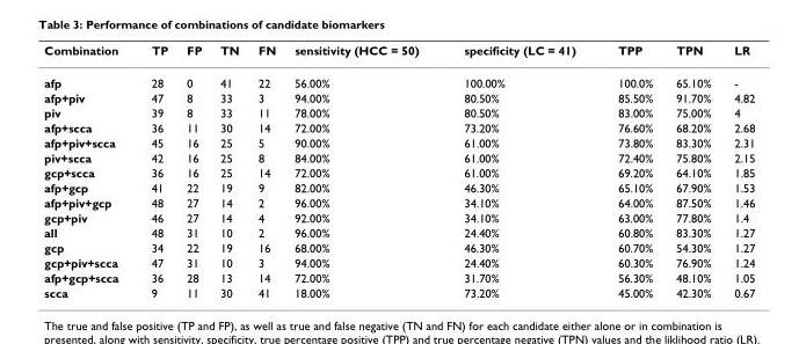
<table><thead><tr><td>Combination</td><td>TP</td><td>FP</td><td>TN</td><td>FN</td><td>sensitivity (HCC = 50)</td><td>specificity (LC = 41)</td><td>TPP</td><td>TPN</td><td>LR</td></tr></thead><tbody><tr><td>afp</td><td>28</td><td>0</td><td>41</td><td>22</td><td>56.00%</td><td>100.00%</td><td>100.0%</td><td>65.10%</td><td>-</td></tr><tr><td>afp+piv</td><td>47</td><td>8</td><td>33</td><td>3</td><td>94.00%</td><td>80.50%</td><td>85.50%</td><td>91.70%</td><td>4.82</td></tr><tr><td>piv</td><td>39</td><td>8</td><td>33</td><td>11</td><td>78.00%</td><td>80.50%</td><td>83.00%</td><td>75.00%</td><td>4</td></tr><tr><td>afp+scca</td><td>36</td><td>11</td><td>30</td><td>14</td><td>72.00%</td><td>73.20%</td><td>76.60%</td><td>68.20%</td><td>2.68</td></tr><tr><td>afp+piv+scca</td><td>45</td><td>16</td><td>25</td><td>5</td><td>90.00%</td><td>61.00%</td><td>73.80%</td><td>83.30%</td><td>2.31</td></tr><tr><td>piv+scca</td><td>42</td><td>16</td><td>25</td><td>8</td><td>84.00%</td><td>61.00%</td><td>72.40%</td><td>75.80%</td><td>2.15</td></tr><tr><td>gcp+scca</td><td>36</td><td>16</td><td>25</td><td>14</td><td>72.00%</td><td>61.00%</td><td>69.20%</td><td>64.10%</td><td>1.85</td></tr><tr><td>afp+gcp</td><td>41</td><td>22</td><td>19</td><td>9</td><td>82.00%</td><td>46.30%</td><td>65.10%</td><td>67.90%</td><td>1.53</td></tr><tr><td>afp+piv+gcp</td><td>48</td><td>27</td><td>14</td><td>2</td><td>96.00%</td><td>34.10%</td><td>64.00%</td><td>87.50%</td><td>1.46</td></tr><tr><td>gcp+piv</td><td>46</td><td>27</td><td>14</td><td>4</td><td>92.00%</td><td>34.10%</td><td>63.00%</td><td>77.80%</td><td>1.4</td></tr><tr><td>all</td><td>48</td><td>31</td><td>10</td><td>2</td><td>96.00%</td><td>24.40%</td><td>60.80%</td><td>83.30%</td><td>1.27</td></tr><tr><td>gcp</td><td>34</td><td>22</td><td>19</td><td>16</td><td>68.00%</td><td>46.30%</td><td>60.70%</td><td>54.30%</td><td>1.27</td></tr><tr><td>gcp+piv+scca</td><td>47</td><td>31</td><td>10</td><td>3</td><td>94.00%</td><td>24.40%</td><td>60.30%</td><td>76.90%</td><td>1.24</td></tr><tr><td>afp+gcp+scca</td><td>36</td><td>28</td><td>13</td><td>14</td><td>72.00%</td><td>31.70%</td><td>56.30%</td><td>48.10%</td><td>1.05</td></tr><tr><td>scca</td><td>9</td><td>11</td><td>30</td><td>41</td><td>18.00%</td><td>73.20%</td><td>45.00%</td><td>42.30%</td><td>0.67</td></tr></tbody></table>